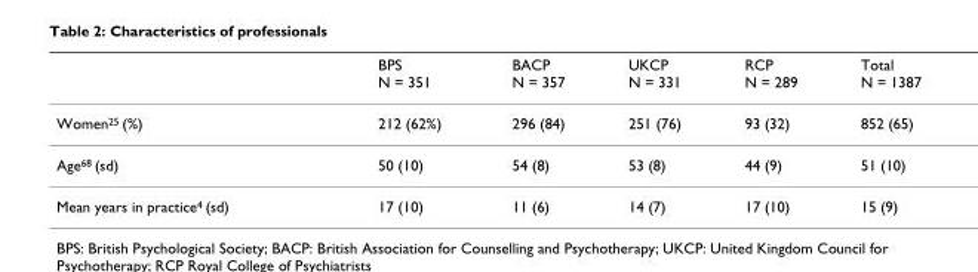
<table><thead><tr><td></td><td>BPS N = 351</td><td>BACP N = 357</td><td>UKCP N = 331</td><td>RCP N = 289</td><td>Total N = 1387</td></tr></thead><tbody><tr><td>Women<sup>25</sup> (%)</td><td>212 (62%)</td><td>296 (84)</td><td>251 (76)</td><td>93 (32)</td><td>852 (65)</td></tr><tr><td>Age<sup>68</sup> (sd)</td><td>50 (10)</td><td>54 (8)</td><td>53 (8)</td><td>44 (9)</td><td>51 (10)</td></tr><tr><td>Mean years in practice<sup>4</sup> (sd)</td><td>17 (10)</td><td>11 (6)</td><td>14 (7)</td><td>17 (10)</td><td>15 (9)</td></tr></tbody></table>